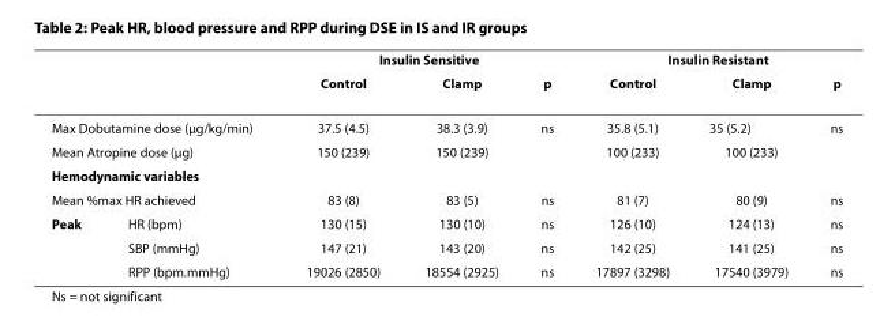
<table><thead><tr><td rowspan="2"></td><td rowspan="2"></td><td colspan="3">Insulin Sensitive</td><td colspan="3">Insulin Resistant</td></tr><tr><td>Control</td><td>Clamp</td><td>p</td><td>Control</td><td>Clamp</td><td>p</td></tr></thead><tbody><tr><td colspan="2">Max Dobutamine dose (μg/kg/min)</td><td>37.5 (4.5)</td><td>38.3 (3.9)</td><td>ns</td><td>35.8 (5.1)</td><td>35 (5.2)</td><td>ns</td></tr><tr><td colspan="2">Mean Atropine dose (μg)</td><td>150 (239)</td><td>150 (239)</td><td></td><td>100 (233)</td><td>100 (233)</td><td></td></tr><tr><td colspan="8">Hemodynamic variables</td></tr><tr><td colspan="2">Mean %max HR achieved</td><td>83 (8)</td><td>83 (5)</td><td>ns</td><td>81 (7)</td><td>80 (9)</td><td>ns</td></tr><tr><td rowspan="3">Peak</td><td>HR (bpm)</td><td>130 (15)</td><td>130 (10)</td><td>ns</td><td>126 (10)</td><td>124 (13)</td><td>ns</td></tr><tr><td>SBP (mmHg)</td><td>147 (21)</td><td>143 (20)</td><td>ns</td><td>142 (25)</td><td>141 (25)</td><td>ns</td></tr><tr><td>RPP (bpm.mmHg)</td><td>19026 (2850)</td><td>18554 (2925)</td><td>ns</td><td>17897 (3298)</td><td>17540 (3979)</td><td>ns</td></tr></tbody></table>